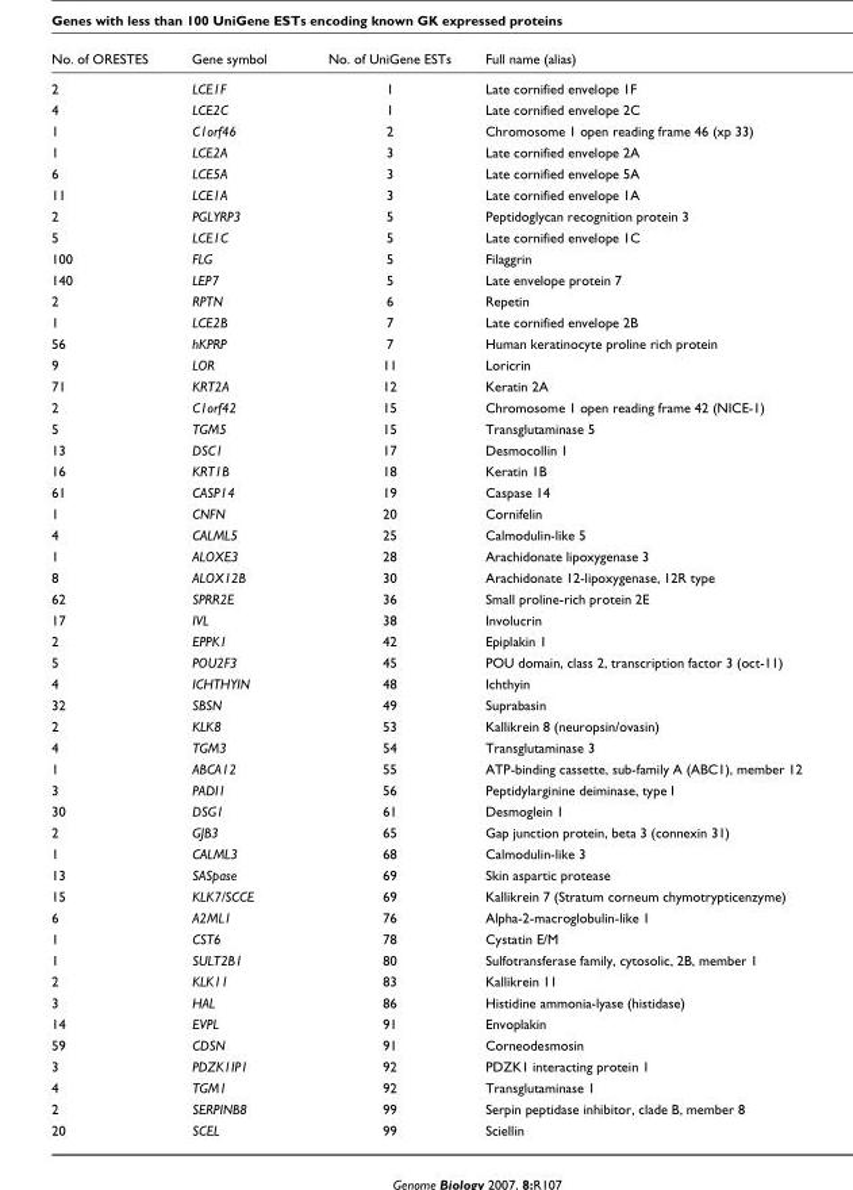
<table><thead><tr><td>No. of ORESTES</td><td>Gene symbol</td><td>No. of UniGene ESTs</td><td>Full name (alias)</td></tr></thead><tbody><tr><td>2</td><td>LCE1F</td><td>1</td><td>Late cornified envelope 1F</td></tr><tr><td>4</td><td>LCE2C</td><td>1</td><td>Late cornified envelope 2C</td></tr><tr><td>1</td><td>C1orf46</td><td>2</td><td>Chromosome 1 open reading frame 46 (xp 33)</td></tr><tr><td>1</td><td>LCE2A</td><td>3</td><td>Late cornified envelope 2A</td></tr><tr><td>6</td><td>LCE5A</td><td>3</td><td>Late cornified envelope 5A</td></tr><tr><td>11</td><td>LCE1A</td><td>3</td><td>Late cornified envelope 1A</td></tr><tr><td>2</td><td>PGLYRP3</td><td>5</td><td>Peptidoglycan recognition protein 3</td></tr><tr><td>5</td><td>LCE1C</td><td>5</td><td>Late cornified envelope 1C</td></tr><tr><td>100</td><td>FLG</td><td>5</td><td>Filaggrin</td></tr><tr><td>140</td><td>LEP7</td><td>5</td><td>Late envelope protein 7</td></tr><tr><td>2</td><td>RPTN</td><td>6</td><td>Repetin</td></tr><tr><td>1</td><td>LCE2B</td><td>7</td><td>Late cornified envelope 2B</td></tr><tr><td>56</td><td>hKPRP</td><td>7</td><td>Human keratinocyte proline rich protein</td></tr><tr><td>9</td><td>LOR</td><td>11</td><td>Loricrin</td></tr><tr><td>71</td><td>KRT2A</td><td>12</td><td>Keratin 2A</td></tr><tr><td>2</td><td>C1orf42</td><td>15</td><td>Chromosome 1 open reading frame 42 (NICE-1)</td></tr><tr><td>5</td><td>TGM5</td><td>15</td><td>Transglutaminase 5</td></tr><tr><td>13</td><td>DSC1</td><td>17</td><td>Desmocollin 1</td></tr><tr><td>16</td><td>KRT1B</td><td>18</td><td>Keratin 1B</td></tr><tr><td>61</td><td>CASP14</td><td>19</td><td>Caspase 14</td></tr><tr><td>1</td><td>CNFN</td><td>20</td><td>Cornifelin</td></tr><tr><td>4</td><td>CALML5</td><td>25</td><td>Calmodulin-like 5</td></tr><tr><td>1</td><td>ALOXE3</td><td>28</td><td>Arachidonate lipoxygenase 3</td></tr><tr><td>8</td><td>ALOX12B</td><td>30</td><td>Arachidonate 12-lipoxygenase, 12R type</td></tr><tr><td>62</td><td>SPRR2E</td><td>36</td><td>Small proline-rich protein 2E</td></tr><tr><td>17</td><td>IVL</td><td>38</td><td>Involucrin</td></tr><tr><td>2</td><td>EPPK1</td><td>42</td><td>Epiplakin 1</td></tr><tr><td>5</td><td>POU2F3</td><td>45</td><td>POU domain, class 2, transcription factor 3 (oct-11)</td></tr><tr><td>4</td><td>ICHTHYIN</td><td>48</td><td>Ichthyin</td></tr><tr><td>32</td><td>SBSN</td><td>49</td><td>Suprabasin</td></tr><tr><td>2</td><td>KLK8</td><td>53</td><td>Kallikrein 8 (neuropsin/ovasin)</td></tr><tr><td>4</td><td>TGM3</td><td>54</td><td>Transglutaminase 3</td></tr><tr><td>1</td><td>ABCA12</td><td>55</td><td>ATP-binding cassette, sub-family A (ABC1), member 12</td></tr><tr><td>3</td><td>PADI1</td><td>56</td><td>Peptidylarginine deiminase, type I</td></tr><tr><td>30</td><td>DSG1</td><td>61</td><td>Desmoglein 1</td></tr><tr><td>2</td><td>GJB3</td><td>65</td><td>Gap junction protein, beta 3 (connexin 31)</td></tr><tr><td>1</td><td>CALML3</td><td>68</td><td>Calmodulin-like 3</td></tr><tr><td>13</td><td>SASpase</td><td>69</td><td>Skin aspartic protease</td></tr><tr><td>15</td><td>KLK7/SCCE</td><td>69</td><td>Kallikrein 7 (Stratum corneum chymotrypticenzyme)</td></tr><tr><td>6</td><td>A2ML1</td><td>76</td><td>Alpha-2-macroglobulin-like 1</td></tr><tr><td>1</td><td>CST6</td><td>78</td><td>Cystatin E/M</td></tr><tr><td>1</td><td>SULT2B1</td><td>80</td><td>Sulfotransferase family, cytosolic, 2B, member 1</td></tr><tr><td>2</td><td>KLK11</td><td>83</td><td>Kallikrein 11</td></tr><tr><td>3</td><td>HAL</td><td>86</td><td>Histidine ammonia-lyase (histidase)</td></tr><tr><td>14</td><td>EVPL</td><td>91</td><td>Envoplakin</td></tr><tr><td>59</td><td>CDSN</td><td>91</td><td>Corneodesmosin</td></tr><tr><td>3</td><td>PDZK1IP1</td><td>92</td><td>PDZK1 interacting protein 1</td></tr><tr><td>4</td><td>TGM1</td><td>92</td><td>Transglutaminase 1</td></tr><tr><td>2</td><td>SERPINB8</td><td>99</td><td>Serpin peptidase inhibitor, clade B, member 8</td></tr><tr><td>20</td><td>SCEL</td><td>99</td><td>Sciellin</td></tr></tbody></table>